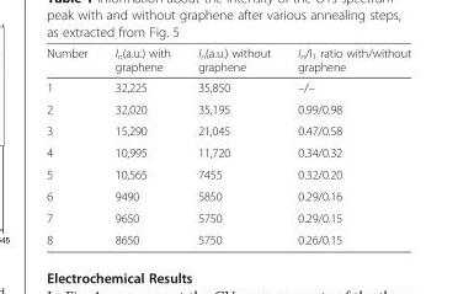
<table><thead><tr><td>Number</td><td>I<sub>n</sub>(a.u.) with graphene</td><td>I<sub>n</sub>(a.u.) without graphene</td><td>I<sub>n</sub>/I<sub>1</sub> ratio with/without graphene</td></tr></thead><tbody><tr><td>1</td><td>32,225</td><td>35,850</td><td>–/–</td></tr><tr><td>2</td><td>32,020</td><td>35,195</td><td>0.99/0.98</td></tr><tr><td>3</td><td>15,290</td><td>21,045</td><td>0.47/0.58</td></tr><tr><td>4</td><td>10,995</td><td>11,720</td><td>0.34/0.32</td></tr><tr><td>5</td><td>10,565</td><td>7455</td><td>0.32/0.20</td></tr><tr><td>6</td><td>9490</td><td>5850</td><td>0.29/0.16</td></tr><tr><td>7</td><td>9650</td><td>5750</td><td>0.29/0.15</td></tr><tr><td>8</td><td>8650</td><td>5750</td><td>0.26/0.15</td></tr></tbody></table>